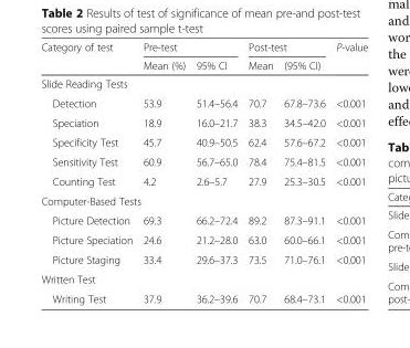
<table><thead><tr><td rowspan="2">Category of test</td><td colspan="2">Pre-test</td><td colspan="2">Post-test</td><td rowspan="2">P-value</td></tr><tr><td>Mean (%)</td><td>95% CI</td><td>Mean</td><td>(95% CI)</td></tr></thead><tbody><tr><td colspan="6">Slide Reading Tests</td></tr><tr><td>Detection</td><td>53.9</td><td>51.4–56.4</td><td>70.7</td><td>67.8–73.6</td><td>&lt;0.001</td></tr><tr><td>Speciation</td><td>18.9</td><td>16.0–21.7</td><td>38.3</td><td>34.5–42.0</td><td>&lt;0.001</td></tr><tr><td>Specificity Test</td><td>45.7</td><td>40.9–50.5</td><td>62.4</td><td>57.6–67.2</td><td>&lt;0.001</td></tr><tr><td>Sensitivity Test</td><td>60.9</td><td>56.7–65.0</td><td>78.4</td><td>75.4–81.5</td><td>&lt;0.001</td></tr><tr><td>Counting Test</td><td>4.2</td><td>2.6–5.7</td><td>27.9</td><td>25.3–30.5</td><td>&lt;0.001</td></tr><tr><td colspan="6">Computer-Based Tests</td></tr><tr><td>Picture Detection</td><td>69.3</td><td>66.2–72.4</td><td>89.2</td><td>87.3–91.1</td><td>&lt;0.001</td></tr><tr><td>Picture Speciation</td><td>24.6</td><td>21.2–28.0</td><td>63.0</td><td>60.0–66.1</td><td>&lt;0.001</td></tr><tr><td>Picture Staging</td><td>33.4</td><td>29.6–37.3</td><td>73.5</td><td>71.0–76.1</td><td>&lt;0.001</td></tr><tr><td colspan="6">Written Test</td></tr><tr><td>Writing Test</td><td>37.9</td><td>36.2–39.6</td><td>70.7</td><td>68.4–73.1</td><td>&lt;0.001</td></tr></tbody></table>